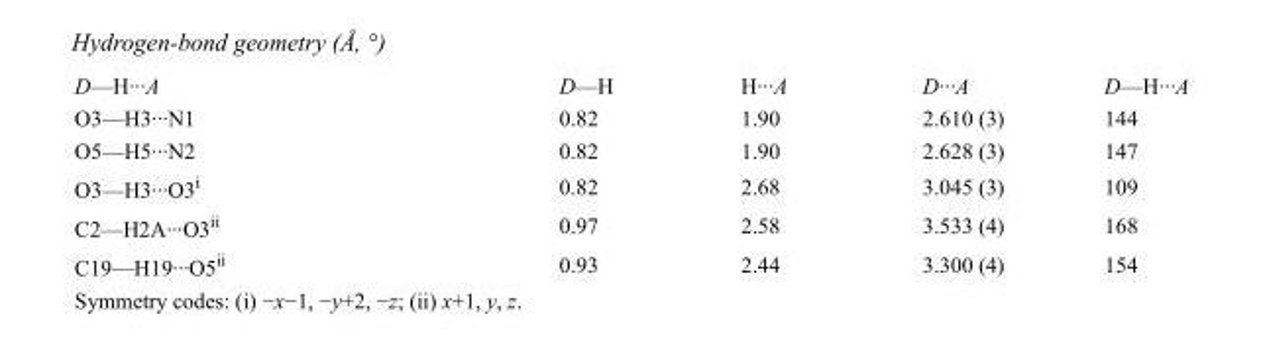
<table><tbody><tr><td>D—H···A</td><td>D—H</td><td>H···A</td><td>D···A</td><td>D—H···A</td></tr><tr><td>O3—H3···N1</td><td>0.82</td><td>1.90</td><td>2.610 (3)</td><td>144</td></tr><tr><td>O5—H5···N2</td><td>0.82</td><td>1.90</td><td>2.628 (3)</td><td>147</td></tr><tr><td>O3—H3···O3<sup>i</sup></td><td>0.82</td><td>2.68</td><td>3.045 (3)</td><td>109</td></tr><tr><td>C2—H2A···O3<sup>ii</sup></td><td>0.97</td><td>2.58</td><td>3.533 (4)</td><td>168</td></tr><tr><td>C19—H19···O5<sup>ii</sup></td><td>0.93</td><td>2.44</td><td>3.300 (4)</td><td>154</td></tr></tbody></table>